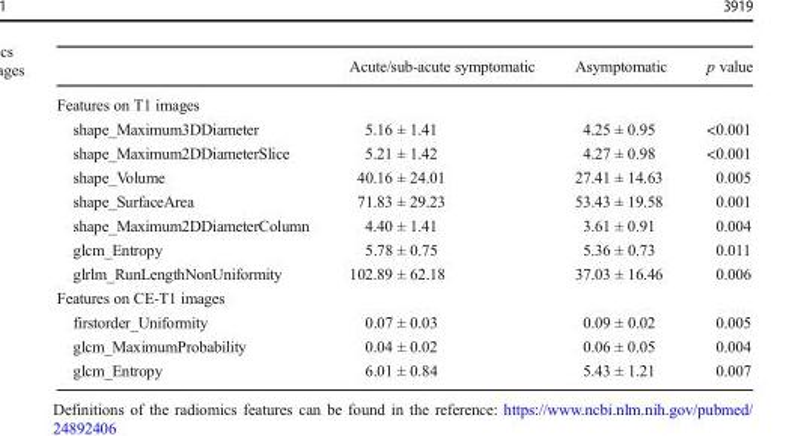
<table><thead><tr><td></td><td>Acute/sub-acute symptomatic</td><td>Asymptomatic</td><td>p value</td></tr></thead><tbody><tr><td colspan="4">Features on T1 images</td></tr><tr><td>shape_Maximum3DDiameter</td><td>5.16 ± 1.41</td><td>4.25 ± 0.95</td><td>&lt;0.001</td></tr><tr><td>shape_Maximum2DDiameterSlice</td><td>5.21 ± 1.42</td><td>4.27 ± 0.98</td><td>&lt;0.001</td></tr><tr><td>shape_Volume</td><td>40.16 ± 24.01</td><td>27.41 ± 14.63</td><td>0.005</td></tr><tr><td>shape_SurfaceArea</td><td>71.83 ± 29.23</td><td>53.43 ± 19.58</td><td>0.001</td></tr><tr><td>shape_Maximum2DDiameterColumn</td><td>4.40 ± 1.41</td><td>3.61 ± 0.91</td><td>0.004</td></tr><tr><td>glcm_Entropy</td><td>5.78 ± 0.75</td><td>5.36 ± 0.73</td><td>0.011</td></tr><tr><td>glrlm_RunLengthNonUniformity</td><td>102.89 ± 62.18</td><td>37.03 ± 16.46</td><td>0.006</td></tr><tr><td colspan="4">Features on CE-T1 images</td></tr><tr><td>firstorder_Uniformity</td><td>0.07 ± 0.03</td><td>0.09 ± 0.02</td><td>0.005</td></tr><tr><td>glcm_MaximumProbability</td><td>0.04 ± 0.02</td><td>0.06 ± 0.05</td><td>0.004</td></tr><tr><td>glcm_Entropy</td><td>6.01 ± 0.84</td><td>5.43 ± 1.21</td><td>0.007</td></tr></tbody></table>